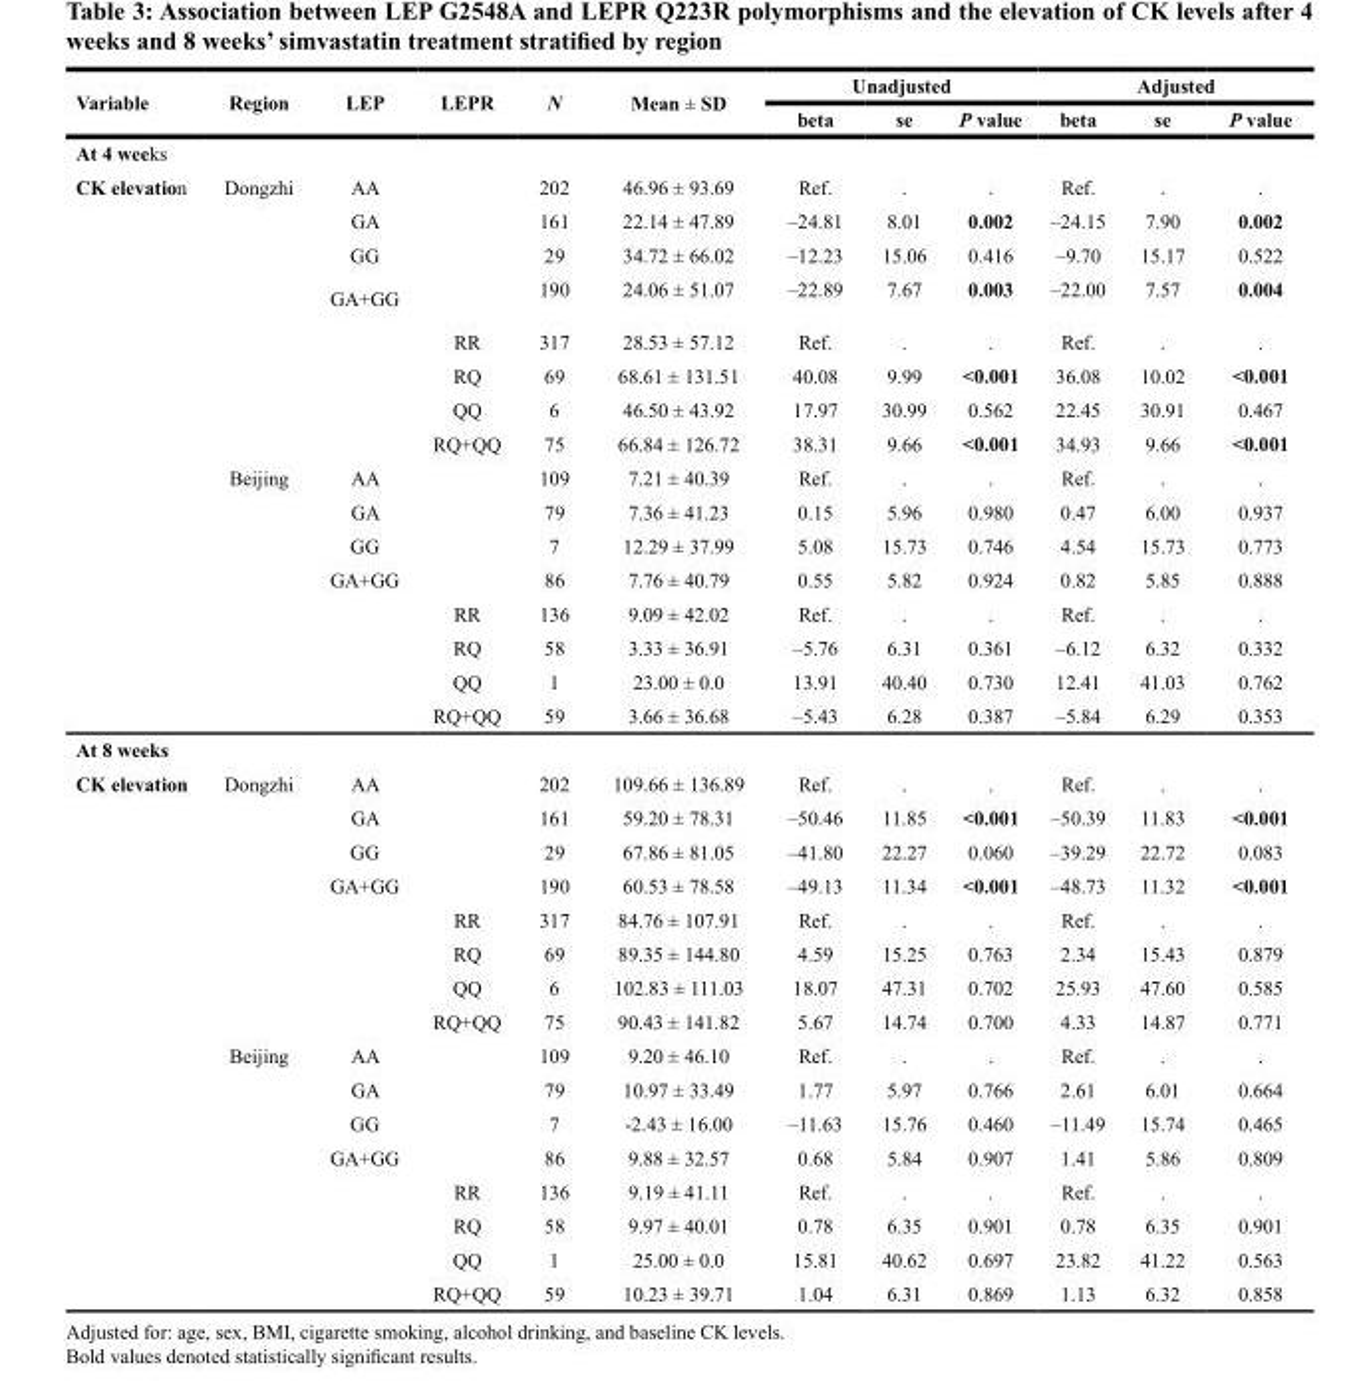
<table><thead><tr><td rowspan="2">Variable</td><td rowspan="2">Region</td><td rowspan="2">LEP</td><td rowspan="2">LEPR</td><td rowspan="2">N</td><td rowspan="2">Mean ± SD</td><td colspan="3">Unadjusted</td><td colspan="3">Adjusted</td></tr><tr><td>beta</td><td>se</td><td>P value</td><td>beta</td><td>se</td><td>P value</td></tr></thead><tbody><tr><td colspan="12">At 4 weeks</td></tr><tr><td rowspan="16">CK elevation</td><td>Dongzhi</td><td>AA</td><td></td><td>202</td><td>46.96 ± 93.69</td><td>Ref.</td><td>.</td><td>.</td><td>Ref.</td><td>.</td><td>.</td></tr><tr><td></td><td>GA</td><td></td><td>161</td><td>22.14 ± 47.89</td><td>–24.81</td><td>8.01</td><td>0.002</td><td>–24.15</td><td>7.90</td><td>0.002</td></tr><tr><td></td><td>GG</td><td></td><td>29</td><td>34.72 ± 66.02</td><td>–12.23</td><td>15.06</td><td>0.416</td><td>–9.70</td><td>15.17</td><td>0.522</td></tr><tr><td></td><td>GA+GG</td><td></td><td>190</td><td>24.06 ± 51.07</td><td>–22.89</td><td>7.67</td><td>0.003</td><td>–22.00</td><td>7.57</td><td>0.004</td></tr><tr><td></td><td></td><td>RR</td><td>317</td><td>28.53 ± 57.12</td><td>Ref.</td><td>.</td><td>.</td><td>Ref.</td><td>.</td><td>.</td></tr><tr><td></td><td></td><td>RQ</td><td>69</td><td>68.61 ± 131.51</td><td>40.08</td><td>9.99</td><td>&lt;0.001</td><td>36.08</td><td>10.02</td><td>&lt;0.001</td></tr><tr><td></td><td></td><td>QQ</td><td>6</td><td>46.50 ± 43.92</td><td>17.97</td><td>30.99</td><td>0.562</td><td>22.45</td><td>30.91</td><td>0.467</td></tr><tr><td></td><td></td><td>RQ+QQ</td><td>75</td><td>66.84 ± 126.72</td><td>38.31</td><td>9.66</td><td>&lt;0.001</td><td>34.93</td><td>9.66</td><td>&lt;0.001</td></tr><tr><td>Beijing</td><td>AA</td><td></td><td>109</td><td>7.21 ± 40.39</td><td>Ref.</td><td>.</td><td>.</td><td>Ref.</td><td>.</td><td>.</td></tr><tr><td></td><td>GA</td><td></td><td>79</td><td>7.36 ± 41.23</td><td>0.15</td><td>5.96</td><td>0.980</td><td>0.47</td><td>6.00</td><td>0.937</td></tr><tr><td></td><td>GG</td><td></td><td>7</td><td>12.29 ± 37.99</td><td>5.08</td><td>15.73</td><td>0.746</td><td>4.54</td><td>15.73</td><td>0.773</td></tr><tr><td></td><td>GA+GG</td><td></td><td>86</td><td>7.76 ± 40.79</td><td>0.55</td><td>5.82</td><td>0.924</td><td>0.82</td><td>5.85</td><td>0.888</td></tr><tr><td></td><td></td><td>RR</td><td>136</td><td>9.09 ± 42.02</td><td>Ref.</td><td>.</td><td>.</td><td>Ref.</td><td>.</td><td>.</td></tr><tr><td></td><td></td><td>RQ</td><td>58</td><td>3.33 ± 36.91</td><td>–5.76</td><td>6.31</td><td>0.361</td><td>–6.12</td><td>6.32</td><td>0.332</td></tr><tr><td></td><td></td><td>QQ</td><td>1</td><td>23.00 ± 0.0</td><td>13.91</td><td>40.40</td><td>0.730</td><td>12.41</td><td>41.03</td><td>0.762</td></tr><tr><td></td><td></td><td>RQ+QQ</td><td>59</td><td>3.66 ± 36.68</td><td>–5.43</td><td>6.28</td><td>0.387</td><td>–5.84</td><td>6.29</td><td>0.353</td></tr><tr><td colspan="12">At 8 weeks</td></tr><tr><td rowspan="16">CK elevation</td><td>Dongzhi</td><td>AA</td><td></td><td>202</td><td>109.66 ± 136.89</td><td>Ref.</td><td>.</td><td>.</td><td>Ref.</td><td>.</td><td>.</td></tr><tr><td></td><td>GA</td><td></td><td>161</td><td>59.20 ± 78.31</td><td>–50.46</td><td>11.85</td><td>&lt;0.001</td><td>–50.39</td><td>11.83</td><td>&lt;0.001</td></tr><tr><td></td><td>GG</td><td></td><td>29</td><td>67.86 ± 81.05</td><td>–41.80</td><td>22.27</td><td>0.060</td><td>–39.29</td><td>22.72</td><td>0.083</td></tr><tr><td></td><td>GA+GG</td><td></td><td>190</td><td>60.53 ± 78.58</td><td>–49.13</td><td>11.34</td><td>&lt;0.001</td><td>–48.73</td><td>11.32</td><td>&lt;0.001</td></tr><tr><td></td><td></td><td>RR</td><td>317</td><td>84.76 ± 107.91</td><td>Ref.</td><td>.</td><td>.</td><td>Ref.</td><td>.</td><td>.</td></tr><tr><td></td><td></td><td>RQ</td><td>69</td><td>89.35 ± 144.80</td><td>4.59</td><td>15.25</td><td>0.763</td><td>2.34</td><td>15.43</td><td>0.879</td></tr><tr><td></td><td></td><td>QQ</td><td>6</td><td>102.83 ± 111.03</td><td>18.07</td><td>47.31</td><td>0.702</td><td>25.93</td><td>47.60</td><td>0.585</td></tr><tr><td></td><td></td><td>RQ+QQ</td><td>75</td><td>90.43 ± 141.82</td><td>5.67</td><td>14.74</td><td>0.700</td><td>4.33</td><td>14.87</td><td>0.771</td></tr><tr><td>Beijing</td><td>AA</td><td></td><td>109</td><td>9.20 ± 46.10</td><td>Ref.</td><td>.</td><td>.</td><td>Ref.</td><td>.</td><td>.</td></tr><tr><td></td><td>GA</td><td></td><td>79</td><td>10.97 ± 33.49</td><td>1.77</td><td>5.97</td><td>0.766</td><td>2.61</td><td>6.01</td><td>0.664</td></tr><tr><td></td><td>GG</td><td></td><td>7</td><td>-2.43 ± 16.00</td><td>–11.63</td><td>15.76</td><td>0.460</td><td>–11.49</td><td>15.74</td><td>0.465</td></tr><tr><td></td><td>GA+GG</td><td></td><td>86</td><td>9.88 ± 32.57</td><td>0.68</td><td>5.84</td><td>0.907</td><td>1.41</td><td>5.86</td><td>0.809</td></tr><tr><td></td><td></td><td>RR</td><td>136</td><td>9.19 ± 41.11</td><td>Ref.</td><td>.</td><td>.</td><td>Ref.</td><td>.</td><td>.</td></tr><tr><td></td><td></td><td>RQ</td><td>58</td><td>9.97 ± 40.01</td><td>0.78</td><td>6.35</td><td>0.901</td><td>0.78</td><td>6.35</td><td>0.901</td></tr><tr><td></td><td></td><td>QQ</td><td>1</td><td>25.00 ± 0.0</td><td>15.81</td><td>40.62</td><td>0.697</td><td>23.82</td><td>41.22</td><td>0.563</td></tr><tr><td></td><td></td><td>RQ+QQ</td><td>59</td><td>10.23 ± 39.71</td><td>1.04</td><td>6.31</td><td>0.869</td><td>1.13</td><td>6.32</td><td>0.858</td></tr></tbody></table>